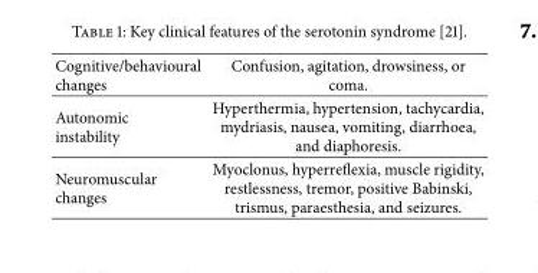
<table><thead><tr><td>Cognitive/behavioural changes</td><td>Confusion, agitation, drowsiness, or coma.</td></tr></thead><tbody><tr><td>Autonomic instability</td><td>Hyperthermia, hypertension, tachycardia, mydriasis, nausea, vomiting, diarrhoea, and diaphoresis.</td></tr><tr><td>Neuromuscular changes</td><td>Myoclonus, hyperreflexia, muscle rigidity, restlessness, tremor, positive Babinski, trismus, paraesthesia, and seizures.</td></tr></tbody></table>